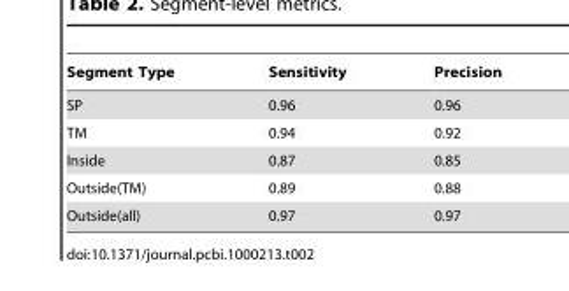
<table><thead><tr><td>Segment Type</td><td>Sensitivity</td><td>Precision</td></tr></thead><tbody><tr><td>SP</td><td>0.96</td><td>0.96</td></tr><tr><td>TM</td><td>0.94</td><td>0.92</td></tr><tr><td>Inside</td><td>0.87</td><td>0.85</td></tr><tr><td>Outside(TM)</td><td>0.89</td><td>0.88</td></tr><tr><td>Outside(all)</td><td>0.97</td><td>0.97</td></tr></tbody></table>